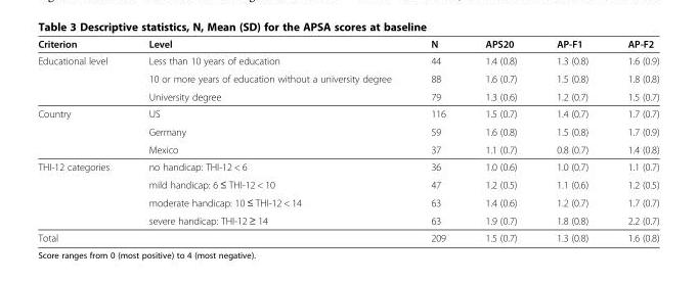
<table><thead><tr><td>Criterion</td><td>Level</td><td>N</td><td>APS20</td><td>AP-F1</td><td>AP-F2</td></tr></thead><tbody><tr><td rowspan="3">Educational level</td><td>Less than 10 years of education</td><td>44</td><td>1.4 (0.8)</td><td>1.3 (0.8)</td><td>1.6 (0.9)</td></tr><tr><td>10 or more years of education without a university degree</td><td>88</td><td>1.6 (0.7)</td><td>1.5 (0.8)</td><td>1.8 (0.8)</td></tr><tr><td>University degree</td><td>79</td><td>1.3 (0.6)</td><td>1.2 (0.7)</td><td>1.5 (0.7)</td></tr><tr><td rowspan="3">Country</td><td>US</td><td>116</td><td>1.5 (0.7)</td><td>1.4 (0.7)</td><td>1.7 (0.7)</td></tr><tr><td>Germany</td><td>59</td><td>1.6 (0.8)</td><td>1.5 (0.8)</td><td>1.7 (0.9)</td></tr><tr><td>Mexico</td><td>37</td><td>1.1 (0.7)</td><td>0.8 (0.7)</td><td>1.4 (0.8)</td></tr><tr><td rowspan="4">THI-12 categories</td><td>no handicap: THI-12 &lt; 6</td><td>36</td><td>1.0 (0.6)</td><td>1.0 (0.7)</td><td>1.1 (0.7)</td></tr><tr><td>mild handicap: 6 ≤ THI-12 &lt; 10</td><td>47</td><td>1.2 (0.5)</td><td>1.1 (0.6)</td><td>1.2 (0.5)</td></tr><tr><td>moderate handicap: 10 ≤ THI-12 &lt; 14</td><td>63</td><td>1.4 (0.6)</td><td>1.2 (0.7)</td><td>1.7 (0.7)</td></tr><tr><td>severe handicap: THI-12 ≥ 14</td><td>63</td><td>1.9 (0.7)</td><td>1.8 (0.8)</td><td>2.2 (0.7)</td></tr><tr><td>Total</td><td></td><td>209</td><td>1.5 (0.7)</td><td>1.3 (0.8)</td><td>1.6 (0.8)</td></tr></tbody></table>